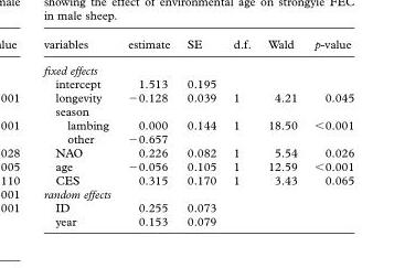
<table><thead><tr><td>variables</td><td>estimate</td><td>SE</td><td>d.f.</td><td>Wald</td><td>p-value</td></tr></thead><tbody><tr><td colspan="6">fixed effects</td></tr><tr><td>intercept</td><td>1.513</td><td>0.195</td><td></td><td></td><td></td></tr><tr><td>longevity</td><td>−0.128</td><td>0.039</td><td>1</td><td>4.21</td><td>0.045</td></tr><tr><td colspan="6">season</td></tr><tr><td>lambing</td><td>0.000</td><td>0.144</td><td>1</td><td>18.50</td><td>&lt;0.001</td></tr><tr><td>other</td><td>−0.657</td><td></td><td></td><td></td><td></td></tr><tr><td>NAO</td><td>0.226</td><td>0.082</td><td>1</td><td>5.54</td><td>0.026</td></tr><tr><td>age</td><td>−0.056</td><td>0.105</td><td>1</td><td>12.59</td><td>&lt;0.001</td></tr><tr><td>CES</td><td>0.315</td><td>0.170</td><td>1</td><td>3.43</td><td>0.065</td></tr><tr><td colspan="6">random effects</td></tr><tr><td>ID</td><td>0.255</td><td>0.073</td><td></td><td></td><td></td></tr><tr><td>year</td><td>0.153</td><td>0.079</td><td></td><td></td><td></td></tr></tbody></table>